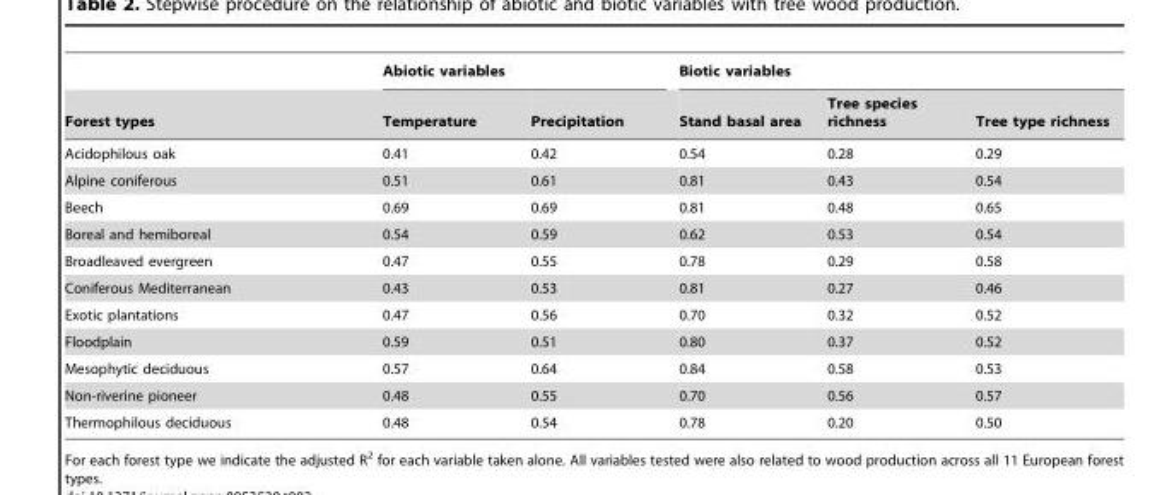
<table><thead><tr><td rowspan="2">Forest types</td><td colspan="2">Abiotic variables</td><td colspan="3">Biotic variables</td></tr><tr><td>Temperature</td><td>Precipitation</td><td>Stand basal area</td><td>Tree species richness</td><td>Tree type richness</td></tr></thead><tbody><tr><td>Acidophilous oak</td><td>0.41</td><td>0.42</td><td>0.54</td><td>0.28</td><td>0.29</td></tr><tr><td>Alpine coniferous</td><td>0.51</td><td>0.61</td><td>0.81</td><td>0.43</td><td>0.54</td></tr><tr><td>Beech</td><td>0.69</td><td>0.69</td><td>0.81</td><td>0.48</td><td>0.65</td></tr><tr><td>Boreal and hemiboreal</td><td>0.54</td><td>0.59</td><td>0.62</td><td>0.53</td><td>0.54</td></tr><tr><td>Broadleaved evergreen</td><td>0.47</td><td>0.55</td><td>0.78</td><td>0.29</td><td>0.58</td></tr><tr><td>Coniferous Mediterranean</td><td>0.43</td><td>0.53</td><td>0.81</td><td>0.27</td><td>0.46</td></tr><tr><td>Exotic plantations</td><td>0.47</td><td>0.56</td><td>0.70</td><td>0.32</td><td>0.52</td></tr><tr><td>Floodplain</td><td>0.59</td><td>0.51</td><td>0.80</td><td>0.37</td><td>0.52</td></tr><tr><td>Mesophytic deciduous</td><td>0.57</td><td>0.64</td><td>0.84</td><td>0.58</td><td>0.53</td></tr><tr><td>Non-riverine pioneer</td><td>0.48</td><td>0.55</td><td>0.70</td><td>0.56</td><td>0.57</td></tr><tr><td>Thermophilous deciduous</td><td>0.48</td><td>0.54</td><td>0.78</td><td>0.20</td><td>0.50</td></tr></tbody></table>